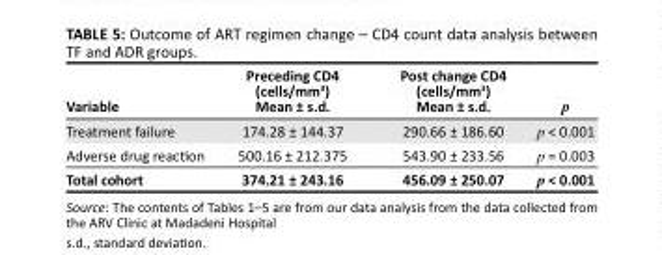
<table><thead><tr><td>Variable</td><td>Preceding CD4 (cells/mm<sup>3</sup>) Mean ± s.d.</td><td>Post change CD4 (cells/mm<sup>3</sup>) Mean ± s.d.</td><td>p</td></tr></thead><tbody><tr><td>Treatment failure</td><td>174.28 ± 144.37</td><td>290.66 ± 186.60</td><td>p &lt; 0.001</td></tr><tr><td>Adverse drug reaction</td><td>500.16 ± 212.375</td><td>543.90 ± 233.56</td><td>p = 0.003</td></tr><tr><td>Total cohort</td><td>374.21 ± 243.16</td><td>456.09 ± 250.07</td><td>p &lt; 0.001</td></tr></tbody></table>